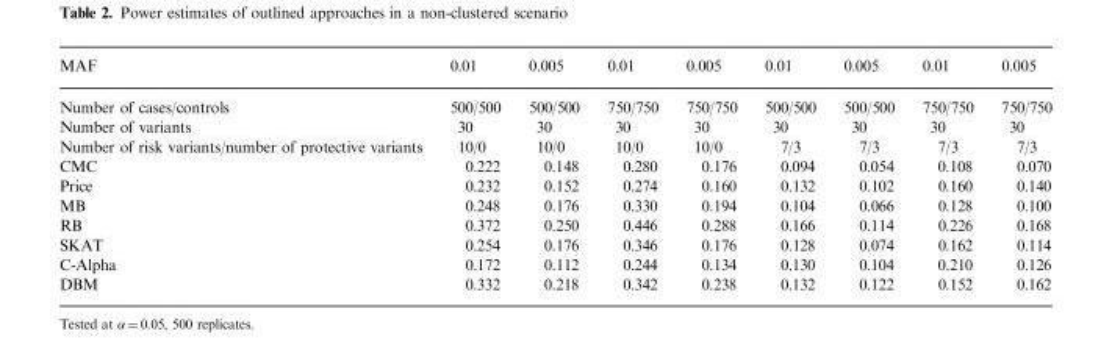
<table><thead><tr><td>MAF</td><td>0.01</td><td>0.005</td><td>0.01</td><td>0.005</td><td>0.01</td><td>0.005</td><td>0.01</td><td>0.005</td></tr></thead><tbody><tr><td>Number of cases/controls</td><td>500/500</td><td>500/500</td><td>750/750</td><td>750/750</td><td>500/500</td><td>500/500</td><td>750/750</td><td>750/750</td></tr><tr><td>Number of variants</td><td>30</td><td>30</td><td>30</td><td>30</td><td>30</td><td>30</td><td>30</td><td>30</td></tr><tr><td>Number of risk variants/number of protective variants</td><td>10/0</td><td>10/0</td><td>10/0</td><td>10/0</td><td>7/3</td><td>7/3</td><td>7/3</td><td>7/3</td></tr><tr><td>CMC</td><td>0.222</td><td>0.148</td><td>0.280</td><td>0.176</td><td>0.094</td><td>0.054</td><td>0.108</td><td>0.070</td></tr><tr><td>Price</td><td>0.232</td><td>0.152</td><td>0.274</td><td>0.160</td><td>0.132</td><td>0.102</td><td>0.160</td><td>0.140</td></tr><tr><td>MB</td><td>0.248</td><td>0.176</td><td>0.330</td><td>0.194</td><td>0.104</td><td>0.066</td><td>0.128</td><td>0.100</td></tr><tr><td>RB</td><td>0.372</td><td>0.250</td><td>0.446</td><td>0.288</td><td>0.166</td><td>0.114</td><td>0.226</td><td>0.168</td></tr><tr><td>SKAT</td><td>0.254</td><td>0.176</td><td>0.346</td><td>0.176</td><td>0.128</td><td>0.074</td><td>0.162</td><td>0.114</td></tr><tr><td>C-Alpha</td><td>0.172</td><td>0.112</td><td>0.244</td><td>0.134</td><td>0.130</td><td>0.104</td><td>0.210</td><td>0.126</td></tr><tr><td>DBM</td><td>0.332</td><td>0.218</td><td>0.342</td><td>0.238</td><td>0.132</td><td>0.122</td><td>0.152</td><td>0.162</td></tr></tbody></table>